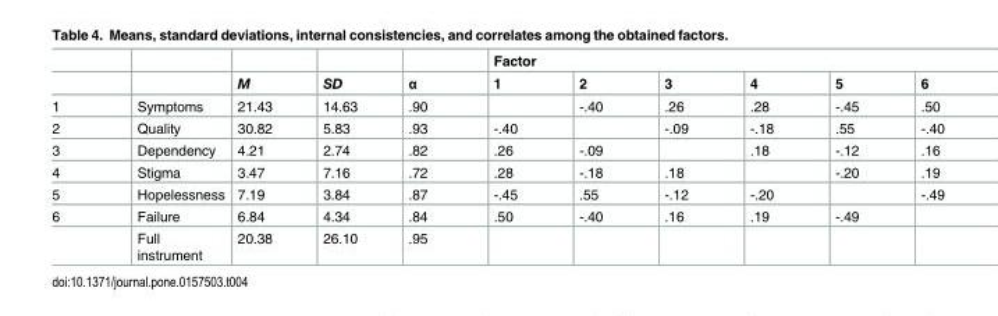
<table><thead><tr><td rowspan="2"></td><td rowspan="2"></td><td rowspan="2">M</td><td rowspan="2">SD</td><td rowspan="2">α</td><td colspan="6">Factor</td></tr><tr><td>1</td><td>2</td><td>3</td><td>4</td><td>5</td><td>6</td></tr></thead><tbody><tr><td>1</td><td>Symptoms</td><td>21.43</td><td>14.63</td><td>.90</td><td></td><td>-.40</td><td>.26</td><td>.28</td><td>-.45</td><td>.50</td></tr><tr><td>2</td><td>Quality</td><td>30.82</td><td>5.83</td><td>.93</td><td>-.40</td><td></td><td>-.09</td><td>-.18</td><td>.55</td><td>-.40</td></tr><tr><td>3</td><td>Dependency</td><td>4.21</td><td>2.74</td><td>.82</td><td>.26</td><td>-.09</td><td></td><td>.18</td><td>-.12</td><td>.16</td></tr><tr><td>4</td><td>Stigma</td><td>3.47</td><td>7.16</td><td>.72</td><td>.28</td><td>-.18</td><td>.18</td><td></td><td>-.20</td><td>.19</td></tr><tr><td>5</td><td>Hopelessness</td><td>7.19</td><td>3.84</td><td>.87</td><td>-.45</td><td>.55</td><td>-.12</td><td>-.20</td><td></td><td>-.49</td></tr><tr><td rowspan="2">6</td><td>Failure</td><td>6.84</td><td>4.34</td><td>.84</td><td>.50</td><td>-.40</td><td>.16</td><td>.19</td><td>-.49</td><td></td></tr><tr><td>Full instrument</td><td>20.38</td><td>26.10</td><td>.95</td><td></td><td></td><td></td><td></td><td></td><td></td></tr></tbody></table>